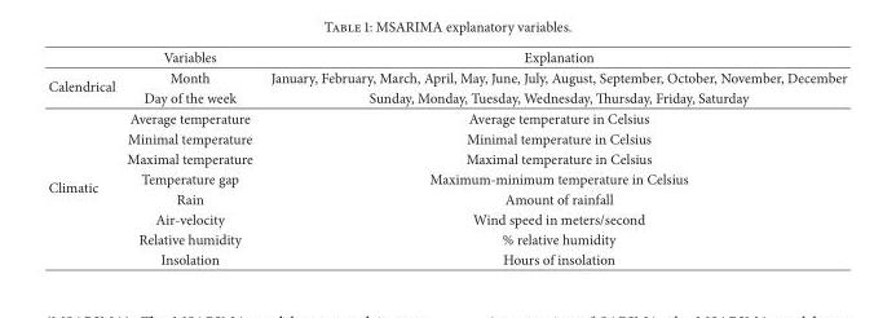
<table><thead><tr><td></td><td>Variables</td><td>Explanation</td></tr></thead><tbody><tr><td rowspan="2">Calendrical</td><td>Month</td><td>January, February, March, April, May, June, July, August, September, October, November, December</td></tr><tr><td>Day of the week</td><td>Sunday, Monday, Tuesday, Wednesday, Thursday, Friday, Saturday</td></tr><tr><td rowspan="8">Climatic</td><td>Average temperature</td><td>Average temperature in Celsius</td></tr><tr><td>Minimal temperature</td><td>Minimal temperature in Celsius</td></tr><tr><td>Maximal temperature</td><td>Maximal temperature in Celsius</td></tr><tr><td>Temperature gap</td><td>Maximum-minimum temperature in Celsius</td></tr><tr><td>Rain</td><td>Amount of rainfall</td></tr><tr><td>Air-velocity</td><td>Wind speed in meters/second</td></tr><tr><td>Relative humidity</td><td>% relative humidity</td></tr><tr><td>Insolation</td><td>Hours of insolation</td></tr></tbody></table>